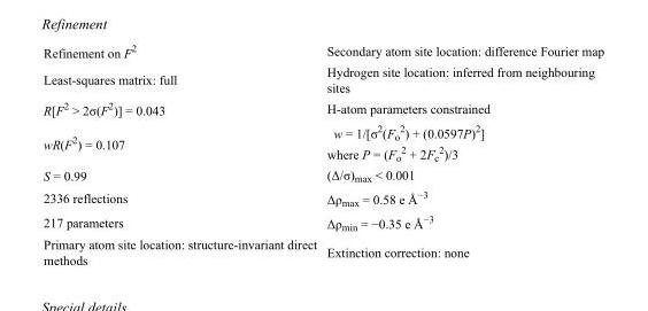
<table><tbody><tr><td>Refinement on F<sup>2</sup></td><td>Secondary atom site location: difference Fourier map</td></tr><tr><td>Least-squares matrix: full</td><td>Hydrogen site location: inferred from neighbouring sites</td></tr><tr><td>R[F<sup>2</sup> &gt; 2σ(F<sup>2</sup>)] = 0.043</td><td>H-atom parameters constrained</td></tr><tr><td>wR(F<sup>2</sup>) = 0.107</td><td>w = 1/[σ<sup>2</sup>(F<sub>o</sub> <sup>2</sup>) + (0.0597P)<sup>2</sup>] where P = (F<sub>o</sub> <sup>2</sup> + 2F<sub>c</sub> <sup>2</sup>)/3</td></tr><tr><td>S = 0.99</td><td>(Δ/σ)<sub>max</sub> &lt; 0.001</td></tr><tr><td>2336 reflections</td><td>Δρ<sub>max</sub> = 0.58 e Å<sup>−3</sup></td></tr><tr><td>217 parameters</td><td>Δρ<sub>min</sub> = −0.35 e Å<sup>−3</sup></td></tr><tr><td>Primary atom site location: structure-invariant direct methods</td><td>Extinction correction: none</td></tr></tbody></table>